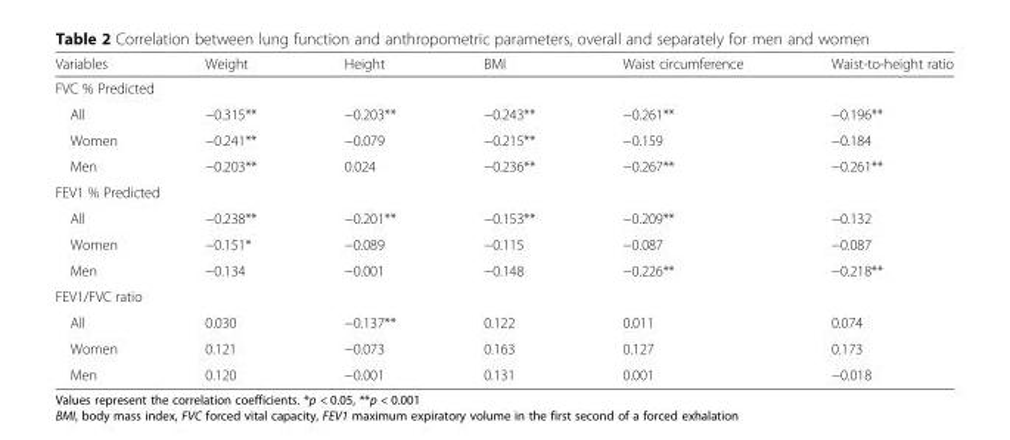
<table><thead><tr><td>Variables</td><td>Weight</td><td>Height</td><td>BMI</td><td>Waist circumference</td><td>Waist-to-height ratio</td></tr></thead><tbody><tr><td colspan="6">FVC % Predicted</td></tr><tr><td>All</td><td>−0.315**</td><td>−0.203**</td><td>−0.243**</td><td>−0.261**</td><td>−0.196**</td></tr><tr><td>Women</td><td>−0.241**</td><td>−0.079</td><td>−0.215**</td><td>−0.159</td><td>−0.184</td></tr><tr><td>Men</td><td>−0.203**</td><td>0.024</td><td>−0.236**</td><td>−0.267**</td><td>−0.261**</td></tr><tr><td colspan="6">FEV1 % Predicted</td></tr><tr><td>All</td><td>−0.238**</td><td>−0.201**</td><td>−0.153**</td><td>−0.209**</td><td>−0.132</td></tr><tr><td>Women</td><td>−0.151*</td><td>−0.089</td><td>−0.115</td><td>−0.087</td><td>−0.087</td></tr><tr><td>Men</td><td>−0.134</td><td>−0.001</td><td>−0.148</td><td>−0.226**</td><td>−0.218**</td></tr><tr><td colspan="6">FEV1/FVC ratio</td></tr><tr><td>All</td><td>0.030</td><td>−0.137**</td><td>0.122</td><td>0.011</td><td>0.074</td></tr><tr><td>Women</td><td>0.121</td><td>−0.073</td><td>0.163</td><td>0.127</td><td>0.173</td></tr><tr><td>Men</td><td>0.120</td><td>−0.001</td><td>0.131</td><td>0.001</td><td>−0.018</td></tr></tbody></table>